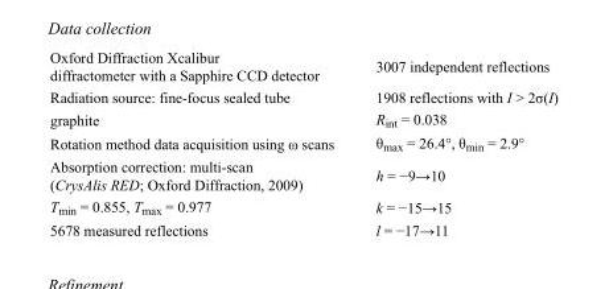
<table><tbody><tr><td>Oxford Diffraction Xcalibur diffractometer with a Sapphire CCD detector</td><td>3007 independent reflections</td></tr><tr><td>Radiation source: fine-focus sealed tube</td><td>1908 reflections with I &gt; 2σ(I)</td></tr><tr><td>graphite</td><td>R<sub>int</sub> = 0.038</td></tr><tr><td>Rotation method data acquisition using ω scans</td><td>θ<sub>max</sub> = 26.4°, θ<sub>min</sub> = 2.9°</td></tr><tr><td>Absorption correction: multi-scan (CrysAlis RED; Oxford Diffraction, 2009)</td><td>h = −9→10</td></tr><tr><td>T<sub>min</sub> = 0.855, T<sub>max</sub> = 0.977</td><td>k = −15→15</td></tr><tr><td>5678 measured reflections</td><td>l = −17→11</td></tr></tbody></table>